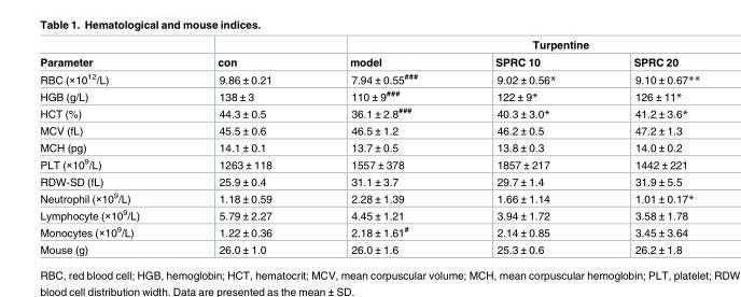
<table><thead><tr><td rowspan="2">Parameter</td><td rowspan="2">con</td><td colspan="3">Turpentine</td></tr><tr><td>model</td><td>SPRC 10</td><td>SPRC 20</td></tr></thead><tbody><tr><td>RBC (×10<sup>12</sup>/L)</td><td>9.86 ± 0.21</td><td>7.94 ± 0.55<sup>###</sup></td><td>9.02 ± 0.56*</td><td>9.10 ± 0.67**</td></tr><tr><td>HGB (g/L)</td><td>138 ± 3</td><td>110 ± 9<sup>###</sup></td><td>122 ± 9*</td><td>126 ± 11*</td></tr><tr><td>HCT (%)</td><td>44.3 ± 0.5</td><td>36.1 ± 2.8<sup>###</sup></td><td>40.3 ± 3.0*</td><td>41.2 ± 3.6*</td></tr><tr><td>MCV (fL)</td><td>45.5 ± 0.6</td><td>46.5 ± 1.2</td><td>46.2 ± 0.5</td><td>47.2 ± 1.3</td></tr><tr><td>MCH (pg)</td><td>14.1 ± 0.1</td><td>13.7 ± 0.5</td><td>13.8 ± 0.3</td><td>14.0 ± 0.2</td></tr><tr><td>PLT (×10<sup>9</sup>/L)</td><td>1263 ± 118</td><td>1557 ± 378</td><td>1857 ± 217</td><td>1442 ± 221</td></tr><tr><td>RDW-SD (fL)</td><td>25.9 ± 0.4</td><td>31.1 ± 3.7</td><td>29.7 ± 1.4</td><td>31.9 ± 5.5</td></tr><tr><td>Neutrophil (×10<sup>9</sup>/L)</td><td>1.18 ± 0.59</td><td>2.28 ± 1.39</td><td>1.66 ± 1.14</td><td>1.01 ± 0.17*</td></tr><tr><td>Lymphocyte (×10<sup>9</sup>/L)</td><td>5.79 ± 2.27</td><td>4.45 ± 1.21</td><td>3.94 ± 1.72</td><td>3.58 ± 1.78</td></tr><tr><td>Monocytes (×10<sup>9</sup>/L)</td><td>1.22 ± 0.36</td><td>2.18 ± 1.61<sup>#</sup></td><td>2.14 ± 0.85</td><td>3.45 ± 3.64</td></tr><tr><td>Mouse (g)</td><td>26.0 ± 1.0</td><td>26.0 ± 1.6</td><td>25.3 ± 0.6</td><td>26.2 ± 1.8</td></tr></tbody></table>